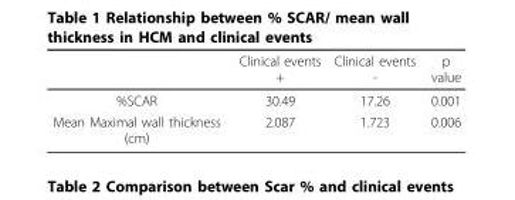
<table><thead><tr><td></td><td>Clinical events +</td><td>Clinical events -</td><td>p value</td></tr></thead><tbody><tr><td>%SCAR</td><td>30.49</td><td>17.26</td><td>0.001</td></tr><tr><td>Mean Maximal wall thickness (cm)</td><td>2.087</td><td>1.723</td><td>0.006</td></tr></tbody></table>